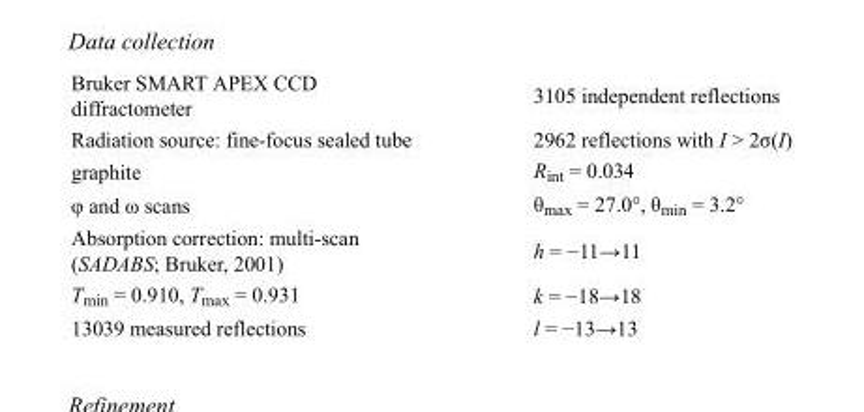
<table><tbody><tr><td>Bruker SMART APEX CCD diffractometer</td><td>3105 independent reflections</td></tr><tr><td>Radiation source: fine-focus sealed tube</td><td>2962 reflections with I &gt; 2σ(I)</td></tr><tr><td>graphite</td><td>R<sub>int</sub> = 0.034</td></tr><tr><td>φ and ω scans</td><td>θ<sub>max</sub> = 27.0°, θ<sub>min</sub> = 3.2°</td></tr><tr><td>Absorption correction: multi-scan (SADABS; Bruker, 2001)</td><td>h = −11→11</td></tr><tr><td>T<sub>min</sub> = 0.910, T<sub>max</sub> = 0.931</td><td>k = −18→18</td></tr><tr><td>13039 measured reflections</td><td>l = −13→13</td></tr></tbody></table>